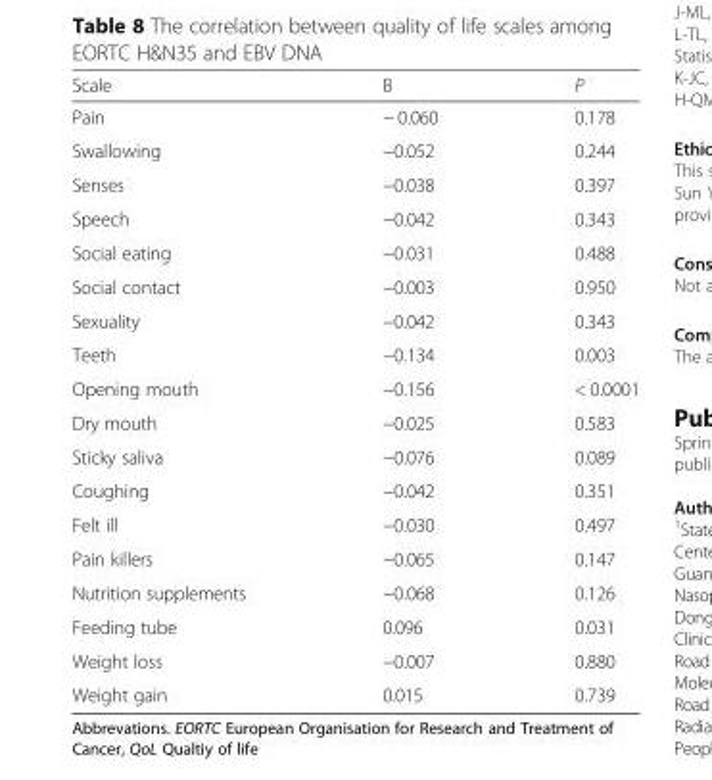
<table><thead><tr><td>Scale</td><td>Β</td><td>P</td></tr></thead><tbody><tr><td>Pain</td><td>− 0.060</td><td>0.178</td></tr><tr><td>Swallowing</td><td>−0.052</td><td>0.244</td></tr><tr><td>Senses</td><td>−0.038</td><td>0.397</td></tr><tr><td>Speech</td><td>−0.042</td><td>0.343</td></tr><tr><td>Social eating</td><td>−0.031</td><td>0.488</td></tr><tr><td>Social contact</td><td>−0.003</td><td>0.950</td></tr><tr><td>Sexuality</td><td>−0.042</td><td>0.343</td></tr><tr><td>Teeth</td><td>−0.134</td><td>0.003</td></tr><tr><td>Opening mouth</td><td>−0.156</td><td>&lt; 0.0001</td></tr><tr><td>Dry mouth</td><td>−0.025</td><td>0.583</td></tr><tr><td>Sticky saliva</td><td>−0.076</td><td>0.089</td></tr><tr><td>Coughing</td><td>−0.042</td><td>0.351</td></tr><tr><td>Felt ill</td><td>−0.030</td><td>0.497</td></tr><tr><td>Pain killers</td><td>−0.065</td><td>0.147</td></tr><tr><td>Nutrition supplements</td><td>−0.068</td><td>0.126</td></tr><tr><td>Feeding tube</td><td>0.096</td><td>0.031</td></tr><tr><td>Weight loss</td><td>−0.007</td><td>0.880</td></tr><tr><td>Weight gain</td><td>0.015</td><td>0.739</td></tr></tbody></table>